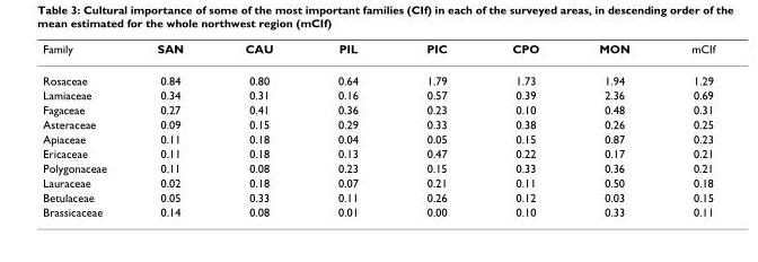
<table><thead><tr><td>Family</td><td>SAN</td><td>CAU</td><td>PIL</td><td>PIC</td><td>CPO</td><td>MON</td><td>mCIf</td></tr></thead><tbody><tr><td>Rosaceae</td><td>0.84</td><td>0.80</td><td>0.64</td><td>1.79</td><td>1.73</td><td>1.94</td><td>1.29</td></tr><tr><td>Lamiaceae</td><td>0.34</td><td>0.31</td><td>0.16</td><td>0.57</td><td>0.39</td><td>2.36</td><td>0.69</td></tr><tr><td>Fagaceae</td><td>0.27</td><td>0.41</td><td>0.36</td><td>0.23</td><td>0.10</td><td>0.48</td><td>0.31</td></tr><tr><td>Asteraceae</td><td>0.09</td><td>0.15</td><td>0.29</td><td>0.33</td><td>0.38</td><td>0.26</td><td>0.25</td></tr><tr><td>Apiaceae</td><td>0.11</td><td>0.18</td><td>0.04</td><td>0.05</td><td>0.15</td><td>0.87</td><td>0.23</td></tr><tr><td>Ericaceae</td><td>0.11</td><td>0.18</td><td>0.13</td><td>0.47</td><td>0.22</td><td>0.17</td><td>0.21</td></tr><tr><td>Polygonaceae</td><td>0.11</td><td>0.08</td><td>0.23</td><td>0.15</td><td>0.33</td><td>0.36</td><td>0.21</td></tr><tr><td>Lauraceae</td><td>0.02</td><td>0.18</td><td>0.07</td><td>0.21</td><td>0.11</td><td>0.50</td><td>0.18</td></tr><tr><td>Betulaceae</td><td>0.05</td><td>0.33</td><td>0.11</td><td>0.26</td><td>0.12</td><td>0.03</td><td>0.15</td></tr><tr><td>Brassicaceae</td><td>0.14</td><td>0.08</td><td>0.01</td><td>0.00</td><td>0.10</td><td>0.33</td><td>0.11</td></tr></tbody></table>